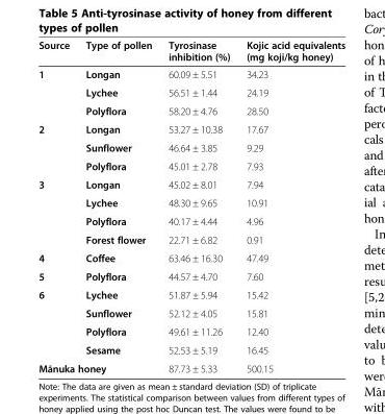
<table><thead><tr><td>Source</td><td>Type of pollen</td><td>Tyrosinase inhibition (%)</td><td>Kojic acid equivalents (mg koji/kg honey)</td></tr></thead><tbody><tr><td rowspan="3">1</td><td>Longan</td><td>60.09 ± 5.51</td><td>34.23</td></tr><tr><td>Lychee</td><td>56.51 ± 1.44</td><td>24.19</td></tr><tr><td>Polyflora</td><td>58.20 ± 4.76</td><td>28.50</td></tr><tr><td rowspan="3">2</td><td>Longan</td><td>53.27 ± 10.38</td><td>17.67</td></tr><tr><td>Sunflower</td><td>46.64 ± 3.85</td><td>9.29</td></tr><tr><td>Polyflora</td><td>45.01 ± 2.78</td><td>7.93</td></tr><tr><td rowspan="4">3</td><td>Longan</td><td>45.02 ± 8.01</td><td>7.94</td></tr><tr><td>Lychee</td><td>48.30 ± 9.65</td><td>10.91</td></tr><tr><td>Polyflora</td><td>40.17 ± 4.44</td><td>4.96</td></tr><tr><td>Forest flower</td><td>22.71 ± 6.82</td><td>0.91</td></tr><tr><td>4</td><td>Coffee</td><td>63.46 ± 16.30</td><td>47.49</td></tr><tr><td>5</td><td>Polyflora</td><td>44.57 ± 4.70</td><td>7.60</td></tr><tr><td rowspan="4">6</td><td>Lychee</td><td>51.87 ± 5.94</td><td>15.42</td></tr><tr><td>Sunflower</td><td>52.12 ± 4.05</td><td>15.81</td></tr><tr><td>Polyflora</td><td>49.61 ± 11.26</td><td>12.40</td></tr><tr><td>Sesame</td><td>52.53 ± 5.19</td><td>16.45</td></tr><tr><td colspan="2">Mānuka honey</td><td>87.73 ± 5.33</td><td>500.15</td></tr></tbody></table>